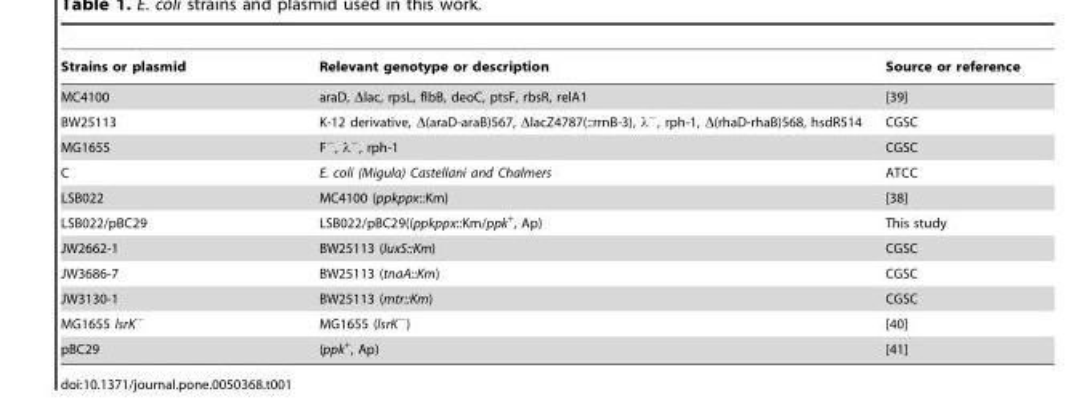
<table><thead><tr><td>Strains or plasmid</td><td>Relevant genotype or description</td><td>Source or reference</td></tr></thead><tbody><tr><td>MC4100</td><td>araD, Δlac, rpsL, flbB, deoC, ptsF, rbsR, relA1</td><td>[39]</td></tr><tr><td>BW25113</td><td>K-12 derivative, Δ(araD-araB)567, ΔlacZ4787(::rrnB-3), λ<sup>−</sup>, rph-1, Δ(rhaD-rhaB)568, hsdR514</td><td>CGSC</td></tr><tr><td>MG1655</td><td>F<sup>−</sup>, λ<sup>−</sup>, rph-1</td><td>CGSC</td></tr><tr><td>C</td><td>E. coli (Migula) Castellani and Chalmers</td><td>ATCC</td></tr><tr><td>LSB022</td><td>MC4100 (ppkppx::Km)</td><td>[38]</td></tr><tr><td>LSB022/pBC29</td><td>LSB022/pBC29((ppkppx::Km/ppk<sup>+</sup>, Ap)</td><td>This study</td></tr><tr><td>JW2662-1</td><td>BW25113 (luxS::Km)</td><td>CGSC</td></tr><tr><td>JW3686-7</td><td>BW25113 (tnaA::Km)</td><td>CGSC</td></tr><tr><td>JW3130-1</td><td>BW25113 (mtr::Km)</td><td>CGSC</td></tr><tr><td>MG1655 lsrK<sup>−</sup></td><td>MG1655 (lsrK<sup>−</sup>)</td><td>[40]</td></tr><tr><td>pBC29</td><td>(ppk<sup>+</sup>, Ap)</td><td>[41]</td></tr></tbody></table>